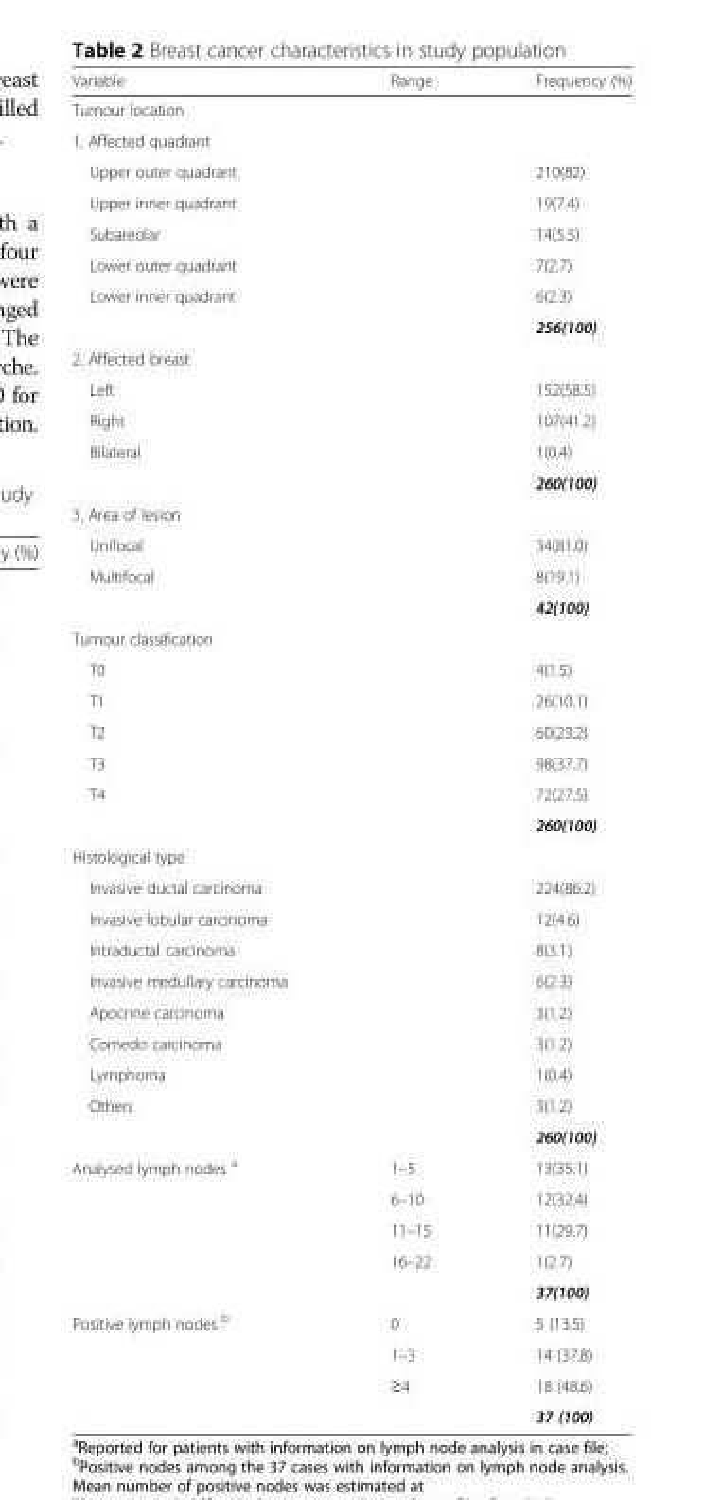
<table><thead><tr><td>Variable</td><td>Range</td><td>Frequency (%)</td></tr></thead><tbody><tr><td colspan="3">Tumour location</td></tr><tr><td colspan="3">1. Affected quadrant</td></tr><tr><td>Upper outer quadrant</td><td></td><td>210(82)</td></tr><tr><td>Upper inner quadrant</td><td></td><td>19(7.4)</td></tr><tr><td>Subareolar</td><td></td><td>14(5.5)</td></tr><tr><td>Lower outer quadrant</td><td></td><td>7(2.7)</td></tr><tr><td rowspan="2">Lower inner quadrant</td><td></td><td>6(2.3)</td></tr><tr><td></td><td>256(100)</td></tr><tr><td colspan="3">2. Affected breast</td></tr><tr><td>Left</td><td></td><td>152(58.5)</td></tr><tr><td>Right</td><td></td><td>107(41.2)</td></tr><tr><td rowspan="2">Bilateral</td><td></td><td>1(0.4)</td></tr><tr><td></td><td>260(100)</td></tr><tr><td colspan="3">3. Area of lesion</td></tr><tr><td>Unifocal</td><td></td><td>34(81.0)</td></tr><tr><td rowspan="2">Multifocal</td><td></td><td>8(19.1)</td></tr><tr><td></td><td>42(100)</td></tr><tr><td colspan="3">Tumour classification</td></tr><tr><td>T0</td><td></td><td>4(1.5)</td></tr><tr><td>T1</td><td></td><td>26(10.1)</td></tr><tr><td>T2</td><td></td><td>60(23.2)</td></tr><tr><td>T3</td><td></td><td>98(37.7)</td></tr><tr><td rowspan="2">T4</td><td></td><td>72(27.5)</td></tr><tr><td></td><td>260(100)</td></tr><tr><td colspan="3">Histological type</td></tr><tr><td>Invasive ductal carcinoma</td><td></td><td>224(86.2)</td></tr><tr><td>Invasive lobular carcinoma</td><td></td><td>12(4.6)</td></tr><tr><td>Intraductal carcinoma</td><td></td><td>8(3.1)</td></tr><tr><td>Invasive medullary carcinoma</td><td></td><td>6(2.3)</td></tr><tr><td>Apocrine carcinoma</td><td></td><td>3(1.2)</td></tr><tr><td>Comedo carcinoma</td><td></td><td>3(1.2)</td></tr><tr><td>Lymphoma</td><td></td><td>1(0.4)</td></tr><tr><td rowspan="2">Others</td><td></td><td>3(1.2)</td></tr><tr><td></td><td>260(100)</td></tr><tr><td rowspan="5">Analysed lymph nodes <sup>a</sup></td><td>1–5</td><td>13(35.1)</td></tr><tr><td>6–10</td><td>12(32.4)</td></tr><tr><td>11–15</td><td>11(29.7)</td></tr><tr><td>16–22</td><td>1(2.7)</td></tr><tr><td></td><td>37(100)</td></tr><tr><td rowspan="4">Positive lymph nodes <sup>b</sup></td><td>0</td><td>5 (13.5)</td></tr><tr><td>1–3</td><td>14 (37.8)</td></tr><tr><td>≥4</td><td>18 (48.6)</td></tr><tr><td></td><td>37 (100)</td></tr></tbody></table>